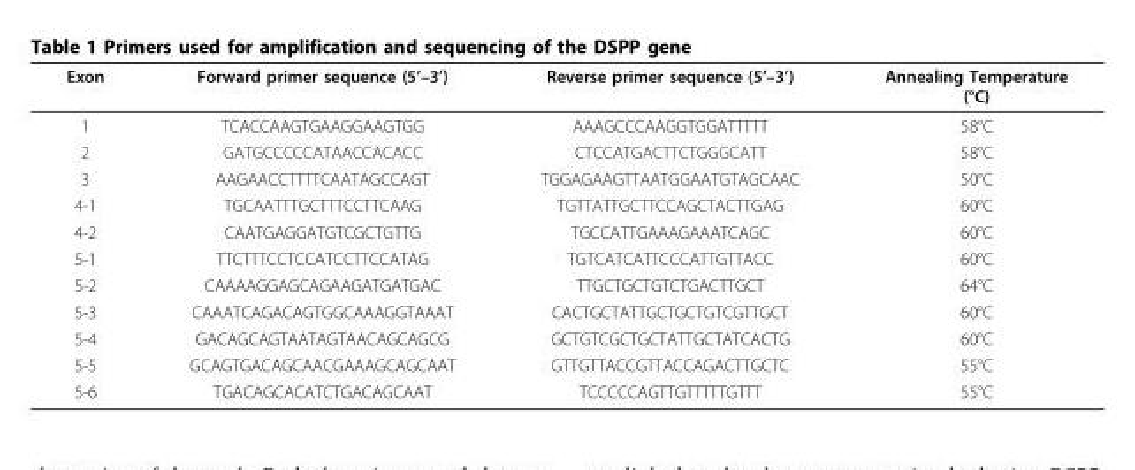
<table><thead><tr><td>Exon</td><td>Forward primer sequence (5’–3’)</td><td>Reverse primer sequence (5’–3’)</td><td>Annealing Temperature (°C)</td></tr></thead><tbody><tr><td>1</td><td>TCACCAAGTGAAGGAAGTGG</td><td>AAAGCCCAAGGTGGATTTTT</td><td>58°C</td></tr><tr><td>2</td><td>GATGCCCCCATAACCACACC</td><td>CTCCATGACTTCTGGGCATT</td><td>58°C</td></tr><tr><td>3</td><td>AAGAACCTTTTCAATAGCCAGT</td><td>TGGAGAAGTTAATGGAATGTAGCAAC</td><td>50°C</td></tr><tr><td>4-1</td><td>TGCAATTTGCTTTCCTTCAAG</td><td>TGTTATTGCTTCCAGCTACTTGAG</td><td>60°C</td></tr><tr><td>4-2</td><td>CAATGAGGATGTCGCTGTTG</td><td>TGCCATTGAAAGAAATCAGC</td><td>60°C</td></tr><tr><td>5-1</td><td>TTCTTTCCTCCATCCTTCCATAG</td><td>TGTCATCATTCCCATTGTTACC</td><td>60°C</td></tr><tr><td>5-2</td><td>CAAAAGGAGCAGAAGATGATGAC</td><td>TTGCTGCTGTCTGACTTGCT</td><td>64°C</td></tr><tr><td>5-3</td><td>CAAATCAGACAGTGGCAAAGGTAAAT</td><td>CACTGCTATTGCTGCTGTCGTTGCT</td><td>60°C</td></tr><tr><td>5-4</td><td>GACAGCAGTAATAGTAACAGCAGCG</td><td>GCTGTCGCTGCTATTGCTATCACTG</td><td>60°C</td></tr><tr><td>5-5</td><td>GCAGTGACAGCAACGAAAGCAGCAAT</td><td>GTTGTTACCGTTACCAGACTTGCTC</td><td>55°C</td></tr><tr><td>5-6</td><td>TGACAGCACATCTGACAGCAAT</td><td>TCCCCCAGTTGTTTTTGTTT</td><td>55°C</td></tr></tbody></table>